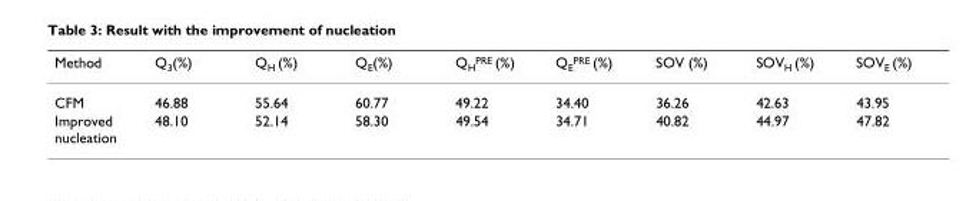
<table><thead><tr><td>Method</td><td>Q3(%)</td><td>QH (%)</td><td>QE(%)</td><td>QHPRE (%)</td><td>QEPRE (%)</td><td>SOV (%)</td><td>SOVH (%)</td><td>SOVE (%)</td></tr></thead><tbody><tr><td>CFM</td><td>46.88</td><td>55.64</td><td>60.77</td><td>49.22</td><td>34.40</td><td>36.26</td><td>42.63</td><td>43.95</td></tr><tr><td>Improved nucleation</td><td>48.10</td><td>52.14</td><td>58.30</td><td>49.54</td><td>34.71</td><td>40.82</td><td>44.97</td><td>47.82</td></tr></tbody></table>